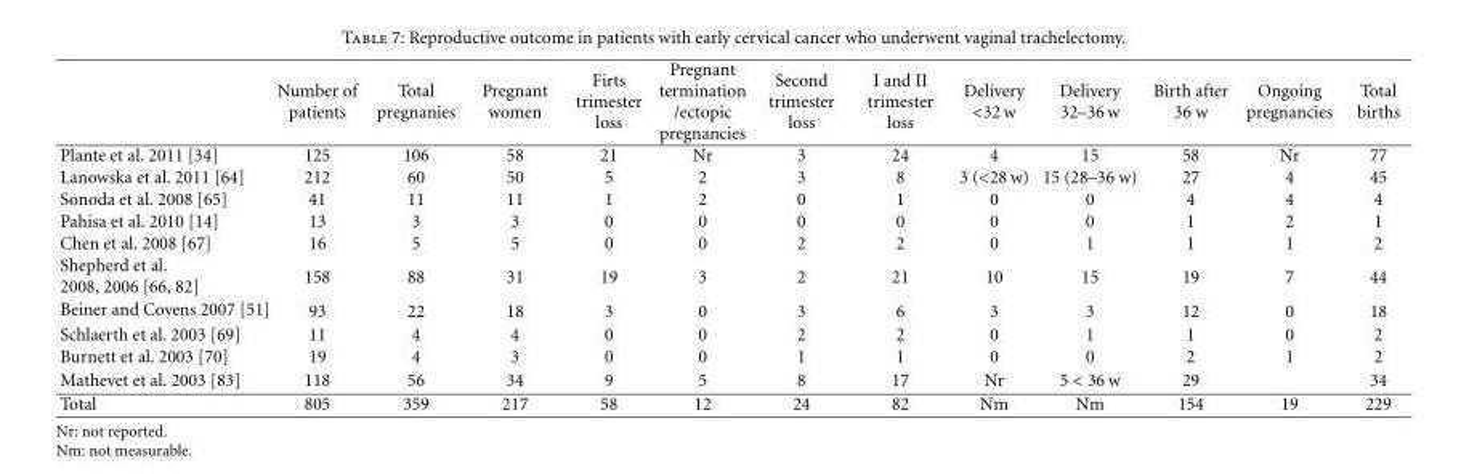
<table><thead><tr><td></td><td>Number of patients</td><td>Total pregnanies</td><td>Pregnant women</td><td>Firts trimester loss</td><td>Pregnant termination /ectopic pregnancies</td><td>Second trimester loss</td><td>I and II trimester loss</td><td>Delivery &lt;32 w</td><td>Delivery 32–36 w</td><td>Birth after 36 w</td><td>Ongoing pregnancies</td><td>Total births</td></tr></thead><tbody><tr><td>Plante et al. 2011 [34]</td><td>125</td><td>106</td><td>58</td><td>21</td><td>Nr</td><td>3</td><td>24</td><td>4</td><td>15</td><td>58</td><td>Nr</td><td>77</td></tr><tr><td>Lanowska et al. 2011 [64]</td><td>212</td><td>60</td><td>50</td><td>5</td><td>2</td><td>3</td><td>8</td><td>3 (&lt;28 w)</td><td>15 (28–36 w)</td><td>27</td><td>4</td><td>45</td></tr><tr><td>Sonoda et al. 2008 [65]</td><td>41</td><td>11</td><td>11</td><td>1</td><td>2</td><td>0</td><td>1</td><td>0</td><td>0</td><td>4</td><td>4</td><td>4</td></tr><tr><td>Pahisa et al. 2010 [14]</td><td>13</td><td>3</td><td>3</td><td>0</td><td>0</td><td>0</td><td>0</td><td>0</td><td>0</td><td>1</td><td>2</td><td>1</td></tr><tr><td>Chen et al. 2008 [67]</td><td>16</td><td>5</td><td>5</td><td>0</td><td>0</td><td>2</td><td>2</td><td>0</td><td>1</td><td>1</td><td>1</td><td>2</td></tr><tr><td>Shepherd et al. 2008, 2006 [66, 82]</td><td>158</td><td>88</td><td>31</td><td>19</td><td>3</td><td>2</td><td>21</td><td>10</td><td>15</td><td>19</td><td>7</td><td>44</td></tr><tr><td>Beiner and Covens 2007 [51]</td><td>93</td><td>22</td><td>18</td><td>3</td><td>0</td><td>3</td><td>6</td><td>3</td><td>3</td><td>12</td><td>0</td><td>18</td></tr><tr><td>Schlaerth et al. 2003 [69]</td><td>11</td><td>4</td><td>4</td><td>0</td><td>0</td><td>2</td><td>2</td><td>0</td><td>1</td><td>1</td><td>0</td><td>2</td></tr><tr><td>Burnett et al. 2003 [70]</td><td>19</td><td>4</td><td>3</td><td>0</td><td>0</td><td>1</td><td>1</td><td>0</td><td>0</td><td>2</td><td>1</td><td>2</td></tr><tr><td>Mathevet et al. 2003 [83]</td><td>118</td><td>56</td><td>34</td><td>9</td><td>5</td><td>8</td><td>17</td><td>Nr</td><td>5 &lt; 36 w</td><td>29</td><td></td><td>34</td></tr><tr><td>Total</td><td>805</td><td>359</td><td>217</td><td>58</td><td>12</td><td>24</td><td>82</td><td>Nm</td><td>Nm</td><td>154</td><td>19</td><td>229</td></tr></tbody></table>